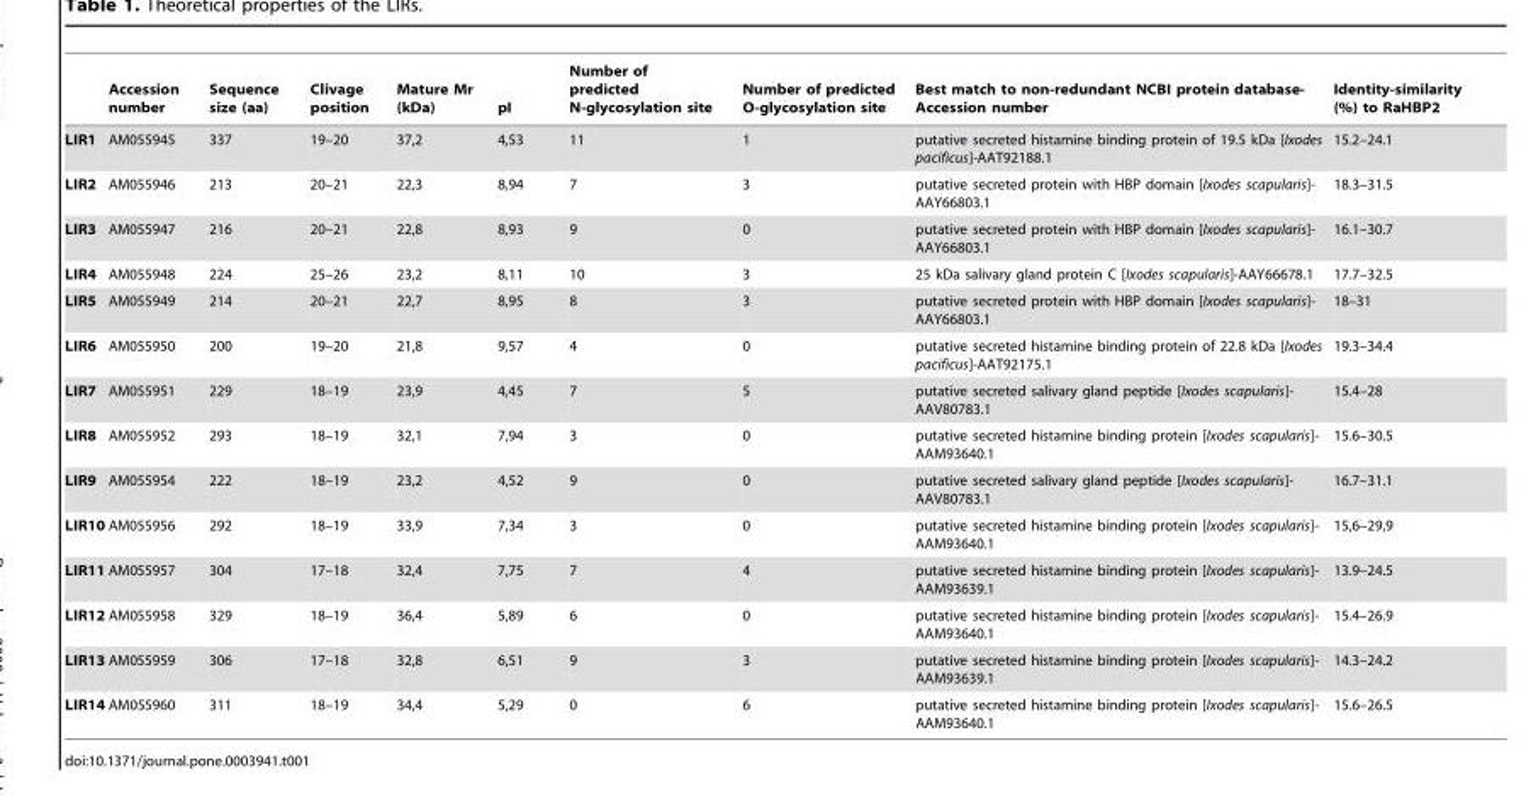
<table><thead><tr><td></td><td>Accession number</td><td>Sequence size (aa)</td><td>Clivage position</td><td>Mature Mr (kDa)</td><td>pI</td><td>Number of predicted N-glycosylation site</td><td>Number of predicted O-glycosylation site</td><td>Best match to non-redundant NCBI protein database- Accession number</td><td>Identity-similarity (%) to RaHBP2</td></tr></thead><tbody><tr><td>LIR1</td><td>AM055945</td><td>337</td><td>19–20</td><td>37,2</td><td>4,53</td><td>11</td><td>1</td><td>putative secreted histamine binding protein of 19.5 kDa [Ixodes pacificus]-AAT92188.1</td><td>15.2–24.1</td></tr><tr><td>LIR2</td><td>AM055946</td><td>213</td><td>20–21</td><td>22,3</td><td>8,94</td><td>7</td><td>3</td><td>putative secreted protein with HBP domain [Ixodes scapularis]- AAY66803.1</td><td>18.3–31.5</td></tr><tr><td>LIR3</td><td>AM055947</td><td>216</td><td>20–21</td><td>22,8</td><td>8,93</td><td>9</td><td>0</td><td>putative secreted protein with HBP domain [Ixodes scapularis]- AAY66803.1</td><td>16.1–30.7</td></tr><tr><td>LIR4</td><td>AM055948</td><td>224</td><td>25–26</td><td>23,2</td><td>8,11</td><td>10</td><td>3</td><td>25 kDa salivary gland protein C [Ixodes scapularis]-AAY66678.1</td><td>17.7–32.5</td></tr><tr><td>LIR5</td><td>AM055949</td><td>214</td><td>20–21</td><td>22,7</td><td>8,95</td><td>8</td><td>3</td><td>putative secreted protein with HBP domain [Ixodes scapularis]- AAY66803.1</td><td>18–31</td></tr><tr><td>LIR6</td><td>AM055950</td><td>200</td><td>19–20</td><td>21,8</td><td>9,57</td><td>4</td><td>0</td><td>putative secreted histamine binding protein of 22.8 kDa [Ixodes pacificus]-AAT92175.1</td><td>19.3–34.4</td></tr><tr><td>LIR7</td><td>AM055951</td><td>229</td><td>18–19</td><td>23,9</td><td>4,45</td><td>7</td><td>5</td><td>putative secreted salivary gland peptide [Ixodes scapularis]- AAV80783.1</td><td>15.4–28</td></tr><tr><td>LIR8</td><td>AM055952</td><td>293</td><td>18–19</td><td>32,1</td><td>7,94</td><td>3</td><td>0</td><td>putative secreted histamine binding protein [Ixodes scapularis]- AAM93640.1</td><td>15.6–30.5</td></tr><tr><td>LIR9</td><td>AM055954</td><td>222</td><td>18–19</td><td>23,2</td><td>4,52</td><td>9</td><td>0</td><td>putative secreted salivary gland peptide [Ixodes scapularis]- AAV80783.1</td><td>16.7–31.1</td></tr><tr><td>LIR10</td><td>AM055956</td><td>292</td><td>18–19</td><td>33,9</td><td>7,34</td><td>3</td><td>0</td><td>putative secreted histamine binding protein [Ixodes scapularis]- AAM93640.1</td><td>15,6–29,9</td></tr><tr><td>LIR11</td><td>AM055957</td><td>304</td><td>17–18</td><td>32,4</td><td>7,75</td><td>7</td><td>4</td><td>putative secreted histamine binding protein [Ixodes scapularis]- AAM93639.1</td><td>13.9–24.5</td></tr><tr><td>LIR12</td><td>AM055958</td><td>329</td><td>18–19</td><td>36,4</td><td>5,89</td><td>6</td><td>0</td><td>putative secreted histamine binding protein [Ixodes scapularis]- AAM93640.1</td><td>15.4–26.9</td></tr><tr><td>LIR13</td><td>AM055959</td><td>306</td><td>17–18</td><td>32,8</td><td>6,51</td><td>9</td><td>3</td><td>putative secreted histamine binding protein [Ixodes scapularis]- AAM93639.1</td><td>14.3–24.2</td></tr><tr><td>LIR14</td><td>AM055960</td><td>311</td><td>18–19</td><td>34,4</td><td>5,29</td><td>0</td><td>6</td><td>putative secreted histamine binding protein [Ixodes scapularis]- AAM93640.1</td><td>15.6–26.5</td></tr></tbody></table>